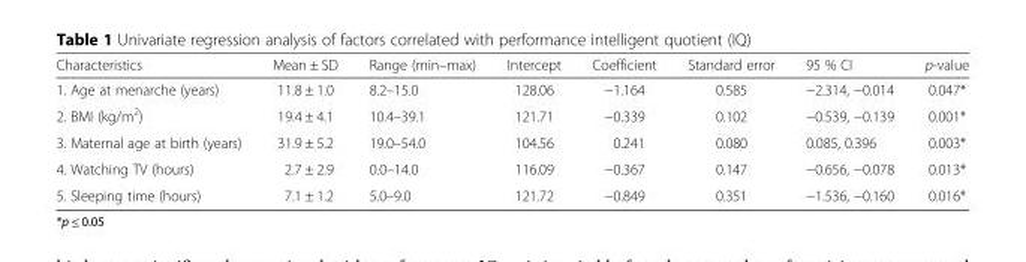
<table><thead><tr><td>Characteristics</td><td>Mean ± SD</td><td>Range (min–max)</td><td>Intercept</td><td>Coefficient</td><td>Standard error</td><td>95 % CI</td><td>p-value</td></tr></thead><tbody><tr><td>1. Age at menarche (years)</td><td>11.8 ± 1.0</td><td>8.2–15.0</td><td>128.06</td><td>−1.164</td><td>0.585</td><td>−2.314, −0.014</td><td>0.047*</td></tr><tr><td>2. BMI (kg/m<sup>2</sup>)</td><td>19.4 ± 4.1</td><td>10.4–39.1</td><td>121.71</td><td>−0.339</td><td>0.102</td><td>−0.539, −0.139</td><td>0.001*</td></tr><tr><td>3. Maternal age at birth (years)</td><td>31.9 ± 5.2</td><td>19.0–54.0</td><td>104.56</td><td>0.241</td><td>0.080</td><td>0.085, 0.396</td><td>0.003*</td></tr><tr><td>4. Watching TV (hours)</td><td>2.7 ± 2.9</td><td>0.0–14.0</td><td>116.09</td><td>−0.367</td><td>0.147</td><td>−0.656, −0.078</td><td>0.013*</td></tr><tr><td>5. Sleeping time (hours)</td><td>7.1 ± 1.2</td><td>5.0–9.0</td><td>121.72</td><td>−0.849</td><td>0.351</td><td>−1.536, −0.160</td><td>0.016*</td></tr></tbody></table>